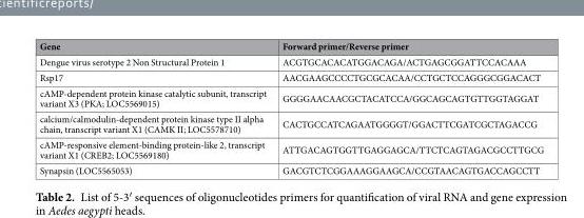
<table><thead><tr><td>Gene</td><td>Forward primer/Reverse primer</td></tr></thead><tbody><tr><td>Dengue virus serotype 2 Non Structural Protein 1</td><td>ACGTGCACACATGGACAGA/ACTGAGCGGATTCCACAAA</td></tr><tr><td>Rsp17</td><td>AACGAAGCCCCTGCGCACAA/CCTGCTCCAGGGCGGACACT</td></tr><tr><td>cAMP-dependent protein kinase catalytic subunit, transcript variant X3 (PKA; LOC5569015)</td><td>GGGGAACAACGCTACATCCA/GGCAGCAGTGTTGGTAGGAT</td></tr><tr><td>calcium/calmodulin-dependent protein kinase type II alpha chain, transcript variant X1 (CAMK II; LOC5578710)</td><td>CACTGCCATCAGAATGGGGT/GGACTTCGATCGCTAGACCG</td></tr><tr><td>cAMP-responsive element-binding protein-like 2, transcript variant X1 (CREB2; LOC5569180)</td><td>ATTGACAGTGGTTGAGGAGCA/TTCTCAGTAGACGCCTTGCG</td></tr><tr><td>Synapsin (LOC5565053)</td><td>GACGTCTCGGAAAGGAAGCA/CCGTAACAGTGACCAGCCTT</td></tr></tbody></table>